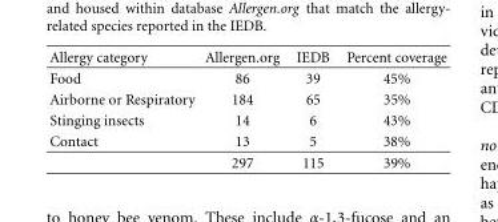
<table><thead><tr><td>Allergy category</td><td>Allergen.org</td><td>IEDB</td><td>Percent coverage</td></tr></thead><tbody><tr><td>Food</td><td>86</td><td>39</td><td>45%</td></tr><tr><td>Airborne or Respiratory</td><td>184</td><td>65</td><td>35%</td></tr><tr><td>Stinging insects</td><td>14</td><td>6</td><td>43%</td></tr><tr><td rowspan="2">Contact</td><td>13</td><td>5</td><td>38%</td></tr><tr><td>297</td><td>115</td><td>39%</td></tr></tbody></table>